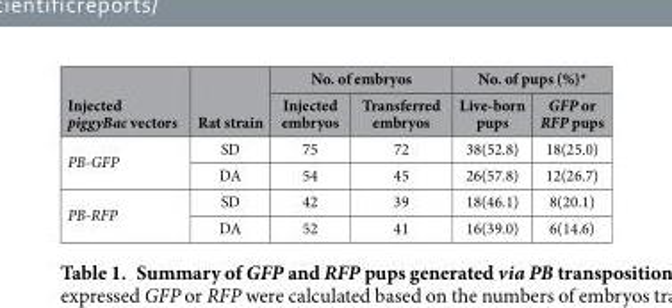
<table><thead><tr><td rowspan="2">Injected piggyBac vectors</td><td rowspan="2">Rat strain</td><td colspan="2">No. of embryos</td><td colspan="2">No. of pups (%)*</td></tr><tr><td>Injected embryos</td><td>Transferred embryos</td><td>Live-born pups</td><td>GFP or RFP pups</td></tr></thead><tbody><tr><td rowspan="2">PB-GFP</td><td>SD</td><td>75</td><td>72</td><td>38(52.8)</td><td>18(25.0)</td></tr><tr><td>DA</td><td>54</td><td>45</td><td>26(57.8)</td><td>12(26.7)</td></tr><tr><td rowspan="2">PB-RFP</td><td>SD</td><td>42</td><td>39</td><td>18(46.1)</td><td>8(20.1)</td></tr><tr><td>DA</td><td>52</td><td>41</td><td>16(39.0)</td><td>6(14.6)</td></tr></tbody></table>